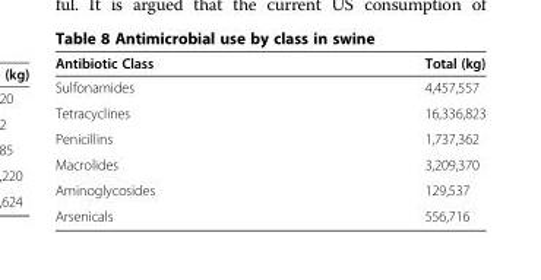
<table><thead><tr><td>Antibiotic Class</td><td>Total (kg)</td></tr></thead><tbody><tr><td>Sulfonamides</td><td>4,457,557</td></tr><tr><td>Tetracyclines</td><td>16,336,823</td></tr><tr><td>Penicillins</td><td>1,737,362</td></tr><tr><td>Macrolides</td><td>3,209,370</td></tr><tr><td>Aminoglycosides</td><td>129,537</td></tr><tr><td>Arsenicals</td><td>556,716</td></tr></tbody></table>